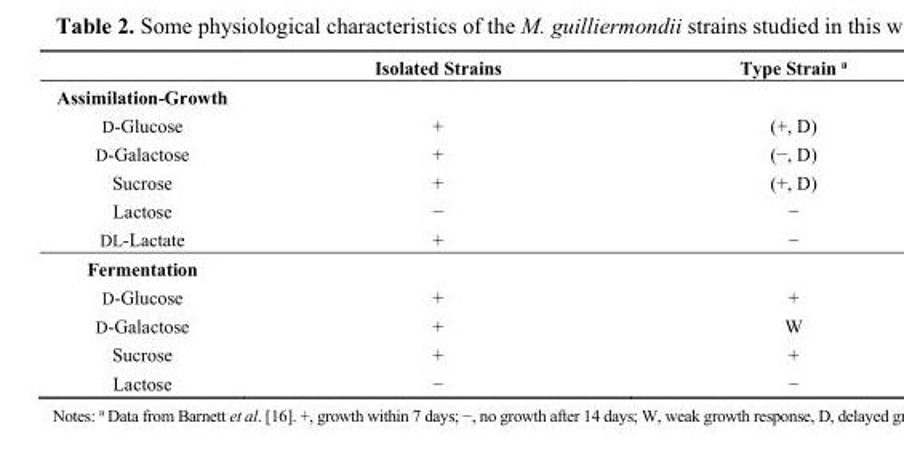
<table><thead><tr><td></td><td>Isolated Strains</td><td>Type Strain <sup>a</sup></td></tr></thead><tbody><tr><td colspan="3">Assimilation-Growth</td></tr><tr><td>D-Glucose</td><td>+</td><td>(+, D)</td></tr><tr><td>D-Galactose</td><td>+</td><td>(−, D)</td></tr><tr><td>Sucrose</td><td>+</td><td>(+, D)</td></tr><tr><td>Lactose</td><td>−</td><td>−</td></tr><tr><td>DL-Lactate</td><td>+</td><td>−</td></tr><tr><td colspan="3">Fermentation</td></tr><tr><td>D-Glucose</td><td>+</td><td>+</td></tr><tr><td>D-Galactose</td><td>+</td><td>W</td></tr><tr><td>Sucrose</td><td>+</td><td>+</td></tr><tr><td>Lactose</td><td>−</td><td>−</td></tr></tbody></table>